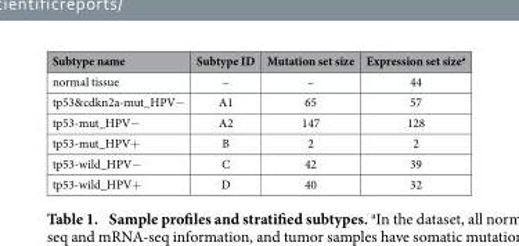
<table><thead><tr><td>Subtype name</td><td>Subtype ID</td><td>Mutation set size</td><td>Expression set size<sup>a</sup></td></tr></thead><tbody><tr><td>normal tissue</td><td>–</td><td>–</td><td>44</td></tr><tr><td>tp53&amp;cdkn2a-mut_HPV−</td><td>A1</td><td>65</td><td>57</td></tr><tr><td>tp53-mut_HPV−</td><td>A2</td><td>147</td><td>128</td></tr><tr><td>tp53-mut_HPV+</td><td>B</td><td>2</td><td>2</td></tr><tr><td>tp53-wild_HPV−</td><td>C</td><td>42</td><td>39</td></tr><tr><td>tp53-wild_HPV+</td><td>D</td><td>40</td><td>32</td></tr></tbody></table>